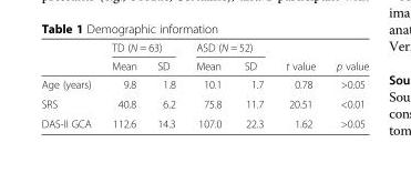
<table><thead><tr><td rowspan="2"></td><td colspan="2">TD (N = 63)</td><td colspan="2">ASD (N = 52)</td><td rowspan="2">t value</td><td rowspan="2">p value</td></tr><tr><td>Mean</td><td>SD</td><td>Mean</td><td>SD</td></tr></thead><tbody><tr><td>Age (years)</td><td>9.8</td><td>1.8</td><td>10.1</td><td>1.7</td><td>0.78</td><td>&gt;0.05</td></tr><tr><td>SRS</td><td>40.8</td><td>6.2</td><td>75.8</td><td>11.7</td><td>20.51</td><td>&lt;0.01</td></tr><tr><td>DAS-II GCA</td><td>112.6</td><td>14.3</td><td>107.0</td><td>22.3</td><td>1.62</td><td>&gt;0.05</td></tr></tbody></table>